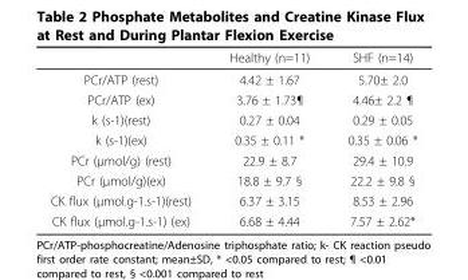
<table><thead><tr><td></td><td>Healthy (n=11)</td><td>SHF (n=14)</td></tr></thead><tbody><tr><td>PCr/ATP (rest)</td><td>4.42 ± 1.67</td><td>5.70± 2.0</td></tr><tr><td>PCr/ATP (ex)</td><td>3.76 ± 1.73¶</td><td>4.46± 2.2 ¶</td></tr><tr><td>k (s-1)(rest)</td><td>0.27 ± 0.04</td><td>0.29 ± 0.05</td></tr><tr><td>k (s-1)(ex)</td><td>0.35 ± 0.11 *</td><td>0.35 ± 0.06 *</td></tr><tr><td>PCr (µmol/g) (rest)</td><td>22.9 ± 8.7</td><td>29.4 ± 10.9</td></tr><tr><td>PCr (µmol/g)(ex)</td><td>18.8 ± 9.7 §</td><td>22.2 ± 9.8 §</td></tr><tr><td>CK flux (µmol.g-1.s-1)(rest)</td><td>6.37 ± 3.15</td><td>8.53 ± 2.96</td></tr><tr><td>CK flux (µmol.g-1.s-1) (ex)</td><td>6.68 ± 4.44</td><td>7.57 ± 2.62*</td></tr></tbody></table>